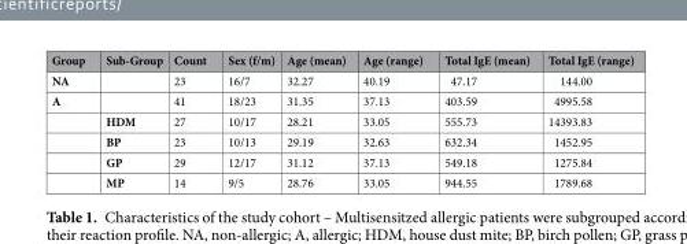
<table><thead><tr><td>Group</td><td>Sub-Group</td><td>Count</td><td>Sex (f/m)</td><td>Age (mean)</td><td>Age (range)</td><td>Total IgE (mean)</td><td>Total IgE (range)</td></tr></thead><tbody><tr><td>NA</td><td></td><td>23</td><td>16/7</td><td>32.27</td><td>40.19</td><td>47.17</td><td>144.00</td></tr><tr><td rowspan="5">A</td><td></td><td>41</td><td>18/23</td><td>31.35</td><td>37.13</td><td>403.59</td><td>4995.58</td></tr><tr><td>HDM</td><td>27</td><td>10/17</td><td>28.21</td><td>33.05</td><td>555.73</td><td>14393.83</td></tr><tr><td>BP</td><td>23</td><td>10/13</td><td>29.19</td><td>32.63</td><td>632.34</td><td>1452.95</td></tr><tr><td>GP</td><td>29</td><td>12/17</td><td>31.12</td><td>37.13</td><td>549.18</td><td>1275.84</td></tr><tr><td>MP</td><td>14</td><td>9/5</td><td>28.76</td><td>33.05</td><td>944.55</td><td>1789.68</td></tr></tbody></table>